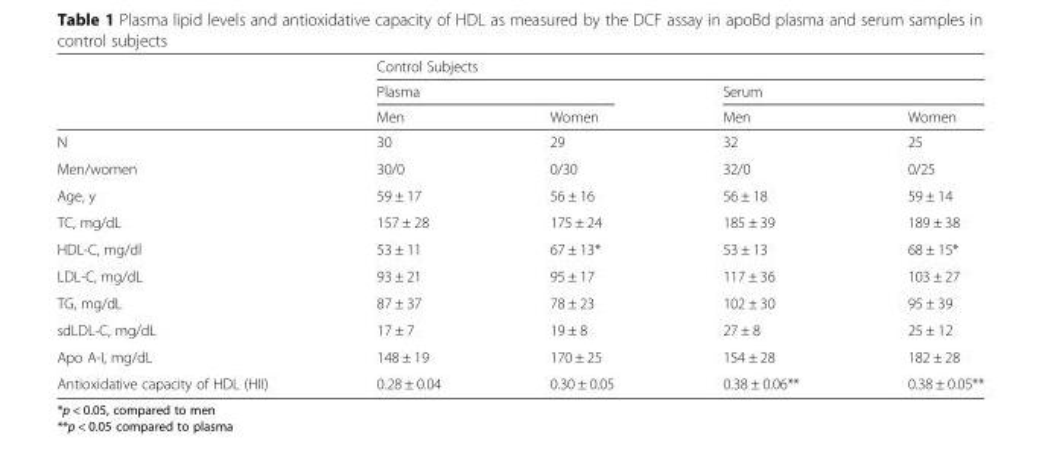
<table><thead><tr><td rowspan="3"></td><td colspan="4">Control Subjects</td></tr><tr><td colspan="2">Plasma</td><td colspan="2">Serum</td></tr><tr><td>Men</td><td>Women</td><td>Men</td><td>Women</td></tr></thead><tbody><tr><td>N</td><td>30</td><td>29</td><td>32</td><td>25</td></tr><tr><td>Men/women</td><td>30/0</td><td>0/30</td><td>32/0</td><td>0/25</td></tr><tr><td>Age, y</td><td>59 ± 17</td><td>56 ± 16</td><td>56 ± 18</td><td>59 ± 14</td></tr><tr><td>TC, mg/dL</td><td>157 ± 28</td><td>175 ± 24</td><td>185 ± 39</td><td>189 ± 38</td></tr><tr><td>HDL-C, mg/dl</td><td>53 ± 11</td><td>67 ± 13*</td><td>53 ± 13</td><td>68 ± 15*</td></tr><tr><td>LDL-C, mg/dL</td><td>93 ± 21</td><td>95 ± 17</td><td>117 ± 36</td><td>103 ± 27</td></tr><tr><td>TG, mg/dL</td><td>87 ± 37</td><td>78 ± 23</td><td>102 ± 30</td><td>95 ± 39</td></tr><tr><td>sdLDL-C, mg/dL</td><td>17 ± 7</td><td>19 ± 8</td><td>27 ± 8</td><td>25 ± 12</td></tr><tr><td>Apo A-I, mg/dL</td><td>148 ± 19</td><td>170 ± 25</td><td>154 ± 28</td><td>182 ± 28</td></tr><tr><td>Antioxidative capacity of HDL (HII)</td><td>0.28 ± 0.04</td><td>0.30 ± 0.05</td><td>0.38 ± 0.06**</td><td>0.38 ± 0.05**</td></tr></tbody></table>